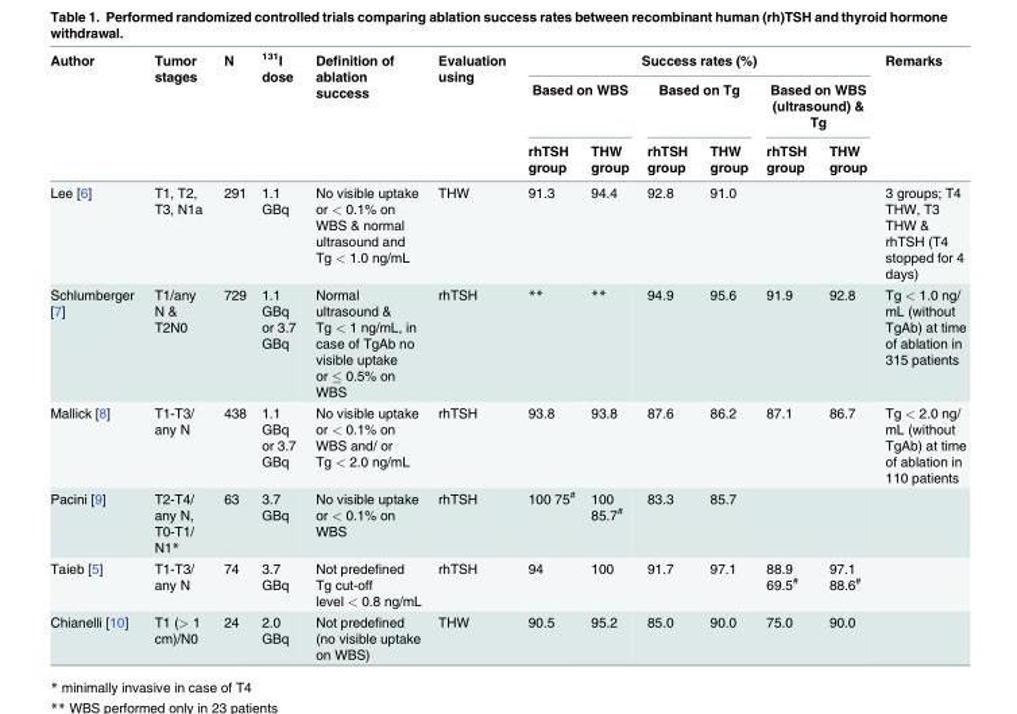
<table><thead><tr><td rowspan="3">Author</td><td rowspan="3">Tumor stages</td><td rowspan="3">N</td><td rowspan="3"><sup>131</sup>I dose</td><td rowspan="3">Definition of ablation success</td><td rowspan="3">Evaluation using</td><td colspan="6">Success rates (%)</td><td rowspan="3">Remarks</td></tr><tr><td colspan="2">Based on WBS</td><td colspan="2">Based on Tg</td><td colspan="2">Based on WBS (ultrasound) &amp; Tg</td></tr><tr><td>rhTSH group</td><td>THW group</td><td>rhTSH group</td><td>THW group</td><td>rhTSH group</td><td>THW group</td></tr></thead><tbody><tr><td>Lee [6]</td><td>T1, T2, T3, N1a</td><td>291</td><td>1.1 GBq</td><td>No visible uptake or &lt; 0.1% on WBS &amp; normal ultrasound and Tg &lt; 1.0 ng/mL</td><td>THW</td><td>91.3</td><td>94.4</td><td>92.8</td><td>91.0</td><td></td><td></td><td>3 groups; T4 THW, T3 THW &amp; rhTSH (T4 stopped for 4 days)</td></tr><tr><td>Schlumberger [7]</td><td>T1/any N &amp; T2N0</td><td>729</td><td>1.1 GBq or 3.7 GBq</td><td>Normal ultrasound &amp; Tg &lt; 1 ng/mL, in case of TgAb no visible uptake or ≤ 0.5% on WBS</td><td>rhTSH</td><td>**</td><td>**</td><td>94.9</td><td>95.6</td><td>91.9</td><td>92.8</td><td>Tg &lt; 1.0 ng/ mL (without TgAb) at time of ablation in 315 patients</td></tr><tr><td>Mallick [8]</td><td>T1-T3/ any N</td><td>438</td><td>1.1 GBq or 3.7 GBq</td><td>No visible uptake or &lt; 0.1% on WBS and/ or Tg &lt; 2.0 ng/mL</td><td>rhTSH</td><td>93.8</td><td>93.8</td><td>87.6</td><td>86.2</td><td>87.1</td><td>86.7</td><td>Tg &lt; 2.0 ng/ mL (without TgAb) at time of ablation in 110 patients</td></tr><tr><td>Pacini [9]</td><td>T2-T4/ any N, T0-T1/ N1*</td><td>63</td><td>3.7 GBq</td><td>No visible uptake or &lt; 0.1% on WBS</td><td>rhTSH</td><td>100 75<sup>#</sup></td><td>100 85.7<sup>#</sup></td><td>83.3</td><td>85.7</td><td></td><td></td><td></td></tr><tr><td>Taieb [5]</td><td>T1-T3/ any N</td><td>74</td><td>3.7 GBq</td><td>Not predefined Tg cut-off level &lt; 0.8 ng/mL</td><td>rhTSH</td><td>94</td><td>100</td><td>91.7</td><td>97.1</td><td>88.9 69.5<sup>#</sup></td><td>97.1 88.6<sup>#</sup></td><td></td></tr><tr><td>Chianelli [10]</td><td>T1 (&gt; 1 cm)/N0</td><td>24</td><td>2.0 GBq</td><td>Not predefined (no visible uptake on WBS)</td><td>THW</td><td>90.5</td><td>95.2</td><td>85.0</td><td>90.0</td><td>75.0</td><td>90.0</td><td></td></tr></tbody></table>